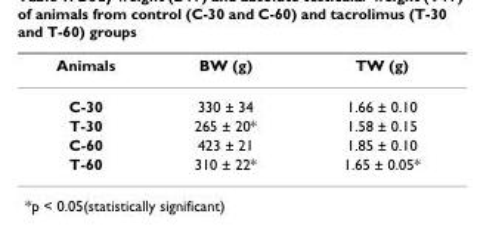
<table><thead><tr><td>Animals</td><td>BW (g)</td><td>TW (g)</td></tr></thead><tbody><tr><td>C-30</td><td>330 ± 34</td><td>1.66 ± 0.10</td></tr><tr><td>T-30</td><td>265 ± 20*</td><td>1.58 ± 0.15</td></tr><tr><td>C-60</td><td>423 ± 21</td><td>1.85 ± 0.10</td></tr><tr><td>T-60</td><td>310 ± 22*</td><td>1.65 ± 0.05*</td></tr></tbody></table>